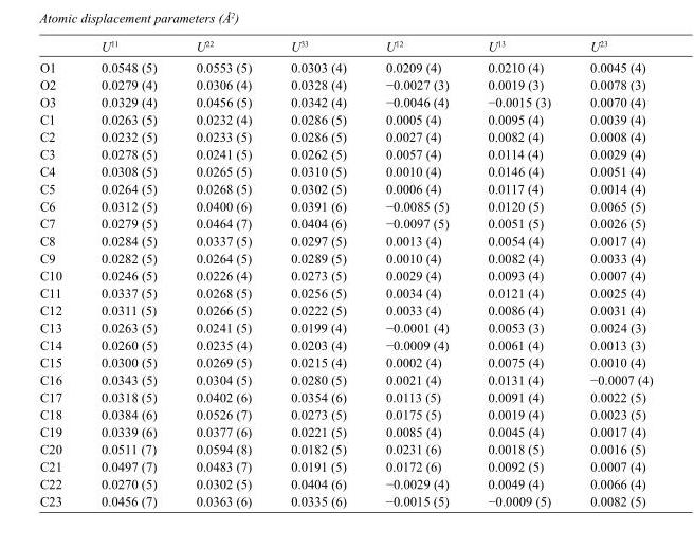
<table><thead><tr><td></td><td>U<sup>11</sup></td><td>U<sup>22</sup></td><td>U<sup>33</sup></td><td>U<sup>12</sup></td><td>U<sup>13</sup></td><td>U<sup>23</sup></td></tr></thead><tbody><tr><td>O1</td><td>0.0548 (5)</td><td>0.0553 (5)</td><td>0.0303 (4)</td><td>0.0209 (4)</td><td>0.0210 (4)</td><td>0.0045 (4)</td></tr><tr><td>O2</td><td>0.0279 (4)</td><td>0.0306 (4)</td><td>0.0328 (4)</td><td>−0.0027 (3)</td><td>0.0019 (3)</td><td>0.0078 (3)</td></tr><tr><td>O3</td><td>0.0329 (4)</td><td>0.0456 (5)</td><td>0.0342 (4)</td><td>−0.0046 (4)</td><td>−0.0015 (3)</td><td>0.0070 (4)</td></tr><tr><td>C1</td><td>0.0263 (5)</td><td>0.0232 (4)</td><td>0.0286 (5)</td><td>0.0005 (4)</td><td>0.0095 (4)</td><td>0.0039 (4)</td></tr><tr><td>C2</td><td>0.0232 (5)</td><td>0.0233 (5)</td><td>0.0286 (5)</td><td>0.0027 (4)</td><td>0.0082 (4)</td><td>0.0008 (4)</td></tr><tr><td>C3</td><td>0.0278 (5)</td><td>0.0241 (5)</td><td>0.0262 (5)</td><td>0.0057 (4)</td><td>0.0114 (4)</td><td>0.0029 (4)</td></tr><tr><td>C4</td><td>0.0308 (5)</td><td>0.0265 (5)</td><td>0.0310 (5)</td><td>0.0010 (4)</td><td>0.0146 (4)</td><td>0.0051 (4)</td></tr><tr><td>C5</td><td>0.0264 (5)</td><td>0.0268 (5)</td><td>0.0302 (5)</td><td>0.0006 (4)</td><td>0.0117 (4)</td><td>0.0014 (4)</td></tr><tr><td>C6</td><td>0.0312 (5)</td><td>0.0400 (6)</td><td>0.0391 (6)</td><td>−0.0085 (5)</td><td>0.0120 (5)</td><td>0.0065 (5)</td></tr><tr><td>C7</td><td>0.0279 (5)</td><td>0.0464 (7)</td><td>0.0404 (6)</td><td>−0.0097 (5)</td><td>0.0051 (5)</td><td>0.0026 (5)</td></tr><tr><td>C8</td><td>0.0284 (5)</td><td>0.0337 (5)</td><td>0.0297 (5)</td><td>0.0013 (4)</td><td>0.0054 (4)</td><td>0.0017 (4)</td></tr><tr><td>C9</td><td>0.0282 (5)</td><td>0.0264 (5)</td><td>0.0289 (5)</td><td>0.0010 (4)</td><td>0.0082 (4)</td><td>0.0033 (4)</td></tr><tr><td>C10</td><td>0.0246 (5)</td><td>0.0226 (4)</td><td>0.0273 (5)</td><td>0.0029 (4)</td><td>0.0093 (4)</td><td>0.0007 (4)</td></tr><tr><td>C11</td><td>0.0337 (5)</td><td>0.0268 (5)</td><td>0.0256 (5)</td><td>0.0034 (4)</td><td>0.0121 (4)</td><td>0.0025 (4)</td></tr><tr><td>C12</td><td>0.0311 (5)</td><td>0.0266 (5)</td><td>0.0222 (5)</td><td>0.0033 (4)</td><td>0.0086 (4)</td><td>0.0031 (4)</td></tr><tr><td>C13</td><td>0.0263 (5)</td><td>0.0241 (5)</td><td>0.0199 (4)</td><td>−0.0001 (4)</td><td>0.0053 (3)</td><td>0.0024 (3)</td></tr><tr><td>C14</td><td>0.0260 (5)</td><td>0.0235 (4)</td><td>0.0203 (4)</td><td>−0.0009 (4)</td><td>0.0061 (4)</td><td>0.0013 (3)</td></tr><tr><td>C15</td><td>0.0300 (5)</td><td>0.0269 (5)</td><td>0.0215 (4)</td><td>0.0002 (4)</td><td>0.0075 (4)</td><td>0.0010 (4)</td></tr><tr><td>C16</td><td>0.0343 (5)</td><td>0.0304 (5)</td><td>0.0280 (5)</td><td>0.0021 (4)</td><td>0.0131 (4)</td><td>−0.0007 (4)</td></tr><tr><td>C17</td><td>0.0318 (5)</td><td>0.0402 (6)</td><td>0.0354 (6)</td><td>0.0113 (5)</td><td>0.0091 (4)</td><td>0.0022 (5)</td></tr><tr><td>C18</td><td>0.0384 (6)</td><td>0.0526 (7)</td><td>0.0273 (5)</td><td>0.0175 (5)</td><td>0.0019 (4)</td><td>0.0023 (5)</td></tr><tr><td>C19</td><td>0.0339 (6)</td><td>0.0377 (6)</td><td>0.0221 (5)</td><td>0.0085 (4)</td><td>0.0045 (4)</td><td>0.0017 (4)</td></tr><tr><td>C20</td><td>0.0511 (7)</td><td>0.0594 (8)</td><td>0.0182 (5)</td><td>0.0231 (6)</td><td>0.0018 (5)</td><td>0.0016 (5)</td></tr><tr><td>C21</td><td>0.0497 (7)</td><td>0.0483 (7)</td><td>0.0191 (5)</td><td>0.0172 (6)</td><td>0.0092 (5)</td><td>0.0007 (4)</td></tr><tr><td>C22</td><td>0.0270 (5)</td><td>0.0302 (5)</td><td>0.0404 (6)</td><td>−0.0029 (4)</td><td>0.0049 (4)</td><td>0.0066 (4)</td></tr><tr><td>C23</td><td>0.0456 (7)</td><td>0.0363 (6)</td><td>0.0335 (6)</td><td>−0.0015 (5)</td><td>−0.0009 (5)</td><td>0.0082 (5)</td></tr></tbody></table>